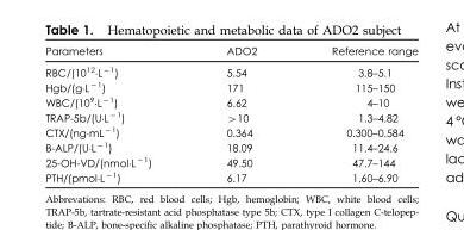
<table><thead><tr><td>Parameters</td><td>ADO2</td><td>Reference range</td></tr></thead><tbody><tr><td>RBC/(10<sup>12</sup>·L <sup>− 1</sup>)</td><td>5.54</td><td>3.8–5.1</td></tr><tr><td>Hgb/(g·L <sup>− 1</sup>)</td><td>171</td><td>115–150</td></tr><tr><td>WBC/(10<sup>9</sup>·L <sup>− 1</sup>)</td><td>6.62</td><td>4–10</td></tr><tr><td>TRAP-5b/(U·L <sup>− 1</sup>)</td><td>&gt;10</td><td>1.3–4.82</td></tr><tr><td>CTX/(ng·mL <sup>− 1</sup>)</td><td>0.364</td><td>0.300–0.584</td></tr><tr><td>B-ALP/(U·L <sup>− 1</sup>)</td><td>18.09</td><td>11.4–24.6</td></tr><tr><td>25-OH-VD/(nmol·L <sup>− 1</sup>)</td><td>49.50</td><td>47.7–144</td></tr><tr><td>PTH/(pmol·L <sup>− 1</sup>)</td><td>6.17</td><td>1.60–6.90</td></tr></tbody></table>